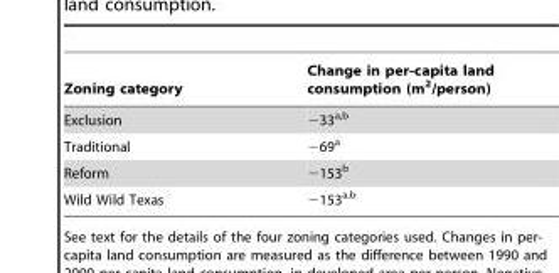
<table><thead><tr><td>Zoning category</td><td>Change in per-capita land consumption (m<sup>2</sup>/person)</td></tr></thead><tbody><tr><td>Exclusion</td><td>−33<sup>a,b</sup></td></tr><tr><td>Traditional</td><td>−69<sup>a</sup></td></tr><tr><td>Reform</td><td>−153<sup>b</sup></td></tr><tr><td>Wild Wild Texas</td><td>−153<sup>a,b</sup></td></tr></tbody></table>